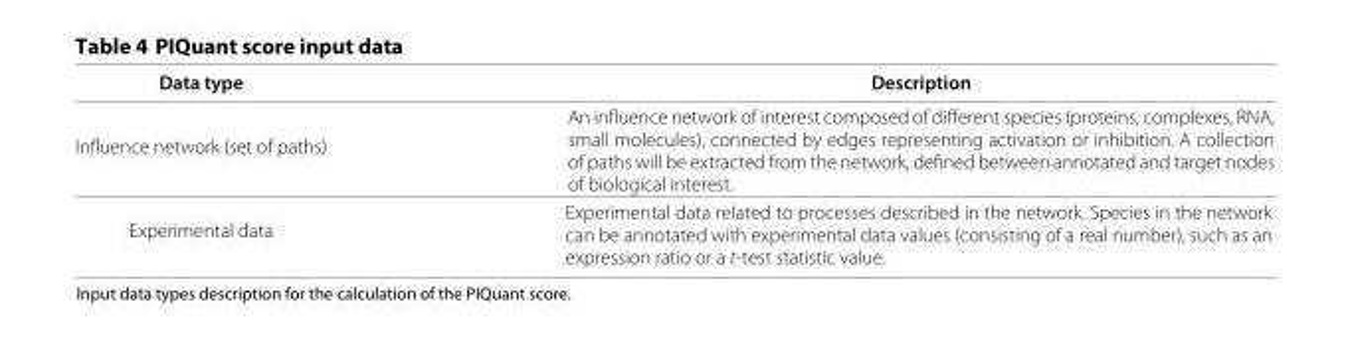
<table><thead><tr><td>Data type</td><td>Description</td></tr></thead><tbody><tr><td>Influence network (set of paths)</td><td>An influence network of interest composed of different species (proteins, complexes, RNA, small molecules), connected by edges representing activation or inhibition. A collection of paths will be extracted from the network, defined between annotated and target nodes of biological interest.</td></tr><tr><td>Experimental data</td><td>Experimental data related to processes described in the network. Species in the network can be annotated with experimental data values (consisting of a real number), such as an expression ratio or a t-test statistic value.</td></tr></tbody></table>